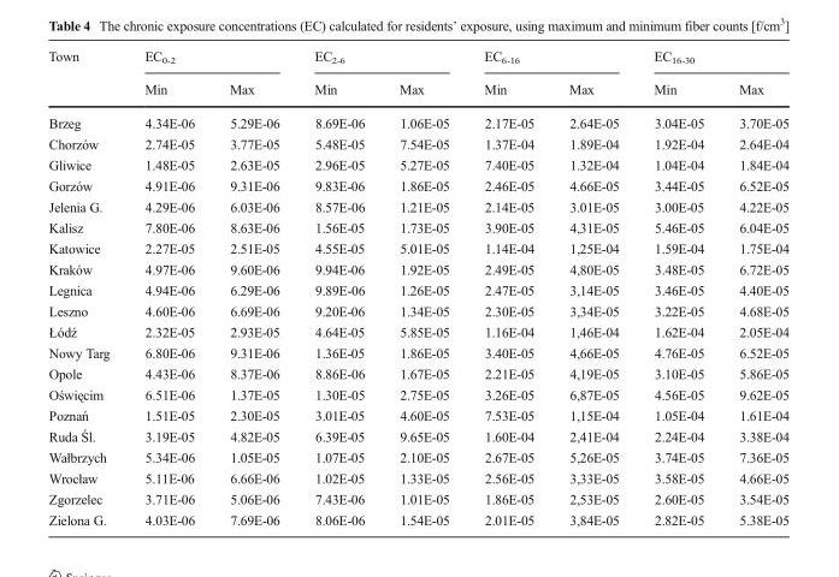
<table><thead><tr><td rowspan="2">Town</td><td colspan="2">EC<sub>0-2</sub></td><td colspan="2">EC<sub>2-6</sub></td><td colspan="2">EC<sub>6-16</sub></td><td colspan="2">EC<sub>16-30</sub></td></tr><tr><td>Min</td><td>Max</td><td>Min</td><td>Max</td><td>Min</td><td>Max</td><td>Min</td><td>Max</td></tr></thead><tbody><tr><td>Brzeg</td><td>4.34E-06</td><td>5.29E-06</td><td>8.69E-06</td><td>1.06E-05</td><td>2.17E-05</td><td>2.64E-05</td><td>3.04E-05</td><td>3.70E-05</td></tr><tr><td>Chorzów</td><td>2.74E-05</td><td>3.77E-05</td><td>5.48E-05</td><td>7.54E-05</td><td>1.37E-04</td><td>1.89E-04</td><td>1.92E-04</td><td>2.64E-04</td></tr><tr><td>Gliwice</td><td>1.48E-05</td><td>2.63E-05</td><td>2.96E-05</td><td>5.27E-05</td><td>7.40E-05</td><td>1.32E-04</td><td>1.04E-04</td><td>1.84E-04</td></tr><tr><td>Gorzów</td><td>4.91E-06</td><td>9.31E-06</td><td>9.83E-06</td><td>1.86E-05</td><td>2.46E-05</td><td>4.66E-05</td><td>3.44E-05</td><td>6.52E-05</td></tr><tr><td>Jelenia G.</td><td>4.29E-06</td><td>6.03E-06</td><td>8.57E-06</td><td>1.21E-05</td><td>2.14E-05</td><td>3.01E-05</td><td>3.00E-05</td><td>4.22E-05</td></tr><tr><td>Kalisz</td><td>7.80E-06</td><td>8.63E-06</td><td>1.56E-05</td><td>1.73E-05</td><td>3.90E-05</td><td>4,31E-05</td><td>5.46E-05</td><td>6.04E-05</td></tr><tr><td>Katowice</td><td>2.27E-05</td><td>2.51E-05</td><td>4.55E-05</td><td>5.01E-05</td><td>1.14E-04</td><td>1,25E-04</td><td>1.59E-04</td><td>1.75E-04</td></tr><tr><td>Kraków</td><td>4.97E-06</td><td>9.60E-06</td><td>9.94E-06</td><td>1.92E-05</td><td>2.49E-05</td><td>4,80E-05</td><td>3.48E-05</td><td>6.72E-05</td></tr><tr><td>Legnica</td><td>4.94E-06</td><td>6.29E-06</td><td>9.89E-06</td><td>1.26E-05</td><td>2.47E-05</td><td>3,14E-05</td><td>3.46E-05</td><td>4.40E-05</td></tr><tr><td>Leszno</td><td>4.60E-06</td><td>6.69E-06</td><td>9.20E-06</td><td>1.34E-05</td><td>2.30E-05</td><td>3,34E-05</td><td>3.22E-05</td><td>4.68E-05</td></tr><tr><td>Łódź</td><td>2.32E-05</td><td>2.93E-05</td><td>4.64E-05</td><td>5.85E-05</td><td>1.16E-04</td><td>1,46E-04</td><td>1.62E-04</td><td>2.05E-04</td></tr><tr><td>Nowy Targ</td><td>6.80E-06</td><td>9.31E-06</td><td>1.36E-05</td><td>1.86E-05</td><td>3.40E-05</td><td>4,66E-05</td><td>4.76E-05</td><td>6.52E-05</td></tr><tr><td>Opole</td><td>4.43E-06</td><td>8.37E-06</td><td>8.86E-06</td><td>1.67E-05</td><td>2.21E-05</td><td>4,19E-05</td><td>3.10E-05</td><td>5.86E-05</td></tr><tr><td>Oświęcim</td><td>6.51E-06</td><td>1.37E-05</td><td>1.30E-05</td><td>2.75E-05</td><td>3.26E-05</td><td>6,87E-05</td><td>4.56E-05</td><td>9.62E-05</td></tr><tr><td>Poznań</td><td>1.51E-05</td><td>2.30E-05</td><td>3.01E-05</td><td>4.60E-05</td><td>7.53E-05</td><td>1,15E-04</td><td>1.05E-04</td><td>1.61E-04</td></tr><tr><td>Ruda Śl.</td><td>3.19E-05</td><td>4.82E-05</td><td>6.39E-05</td><td>9.65E-05</td><td>1.60E-04</td><td>2,41E-04</td><td>2.24E-04</td><td>3.38E-04</td></tr><tr><td>Wałbrzych</td><td>5.34E-06</td><td>1.05E-05</td><td>1.07E-05</td><td>2.10E-05</td><td>2.67E-05</td><td>5,26E-05</td><td>3.74E-05</td><td>7.36E-05</td></tr><tr><td>Wrocław</td><td>5.11E-06</td><td>6.66E-06</td><td>1.02E-05</td><td>1.33E-05</td><td>2.56E-05</td><td>3,33E-05</td><td>3.58E-05</td><td>4.66E-05</td></tr><tr><td>Zgorzelec</td><td>3.71E-06</td><td>5.06E-06</td><td>7.43E-06</td><td>1.01E-05</td><td>1.86E-05</td><td>2,53E-05</td><td>2.60E-05</td><td>3.54E-05</td></tr><tr><td>Zielona G.</td><td>4.03E-06</td><td>7.69E-06</td><td>8.06E-06</td><td>1.54E-05</td><td>2.01E-05</td><td>3,84E-05</td><td>2.82E-05</td><td>5.38E-05</td></tr></tbody></table>